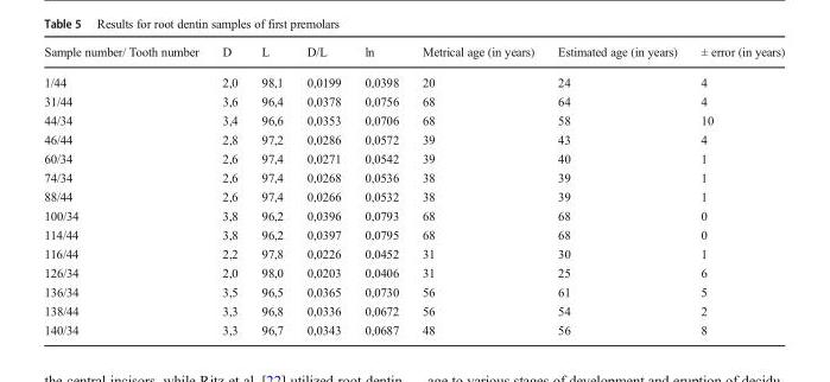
<table><thead><tr><td>Sample number/ Tooth number</td><td>D</td><td>L</td><td>D/L</td><td>ln</td><td>Metrical age (in years)</td><td>Estimated age (in years)</td><td>± error (in years)</td></tr></thead><tbody><tr><td>1/44</td><td>2,0</td><td>98,1</td><td>0,0199</td><td>0,0398</td><td>20</td><td>24</td><td>4</td></tr><tr><td>31/44</td><td>3,6</td><td>96,4</td><td>0,0378</td><td>0,0756</td><td>68</td><td>64</td><td>4</td></tr><tr><td>44/34</td><td>3,4</td><td>96,6</td><td>0,0353</td><td>0,0706</td><td>68</td><td>58</td><td>10</td></tr><tr><td>46/44</td><td>2,8</td><td>97,2</td><td>0,0286</td><td>0,0572</td><td>39</td><td>43</td><td>4</td></tr><tr><td>60/34</td><td>2,6</td><td>97,4</td><td>0,0271</td><td>0,0542</td><td>39</td><td>40</td><td>1</td></tr><tr><td>74/34</td><td>2,6</td><td>97,4</td><td>0,0268</td><td>0,0536</td><td>38</td><td>39</td><td>1</td></tr><tr><td>88/44</td><td>2,6</td><td>97,4</td><td>0,0266</td><td>0,0532</td><td>38</td><td>39</td><td>1</td></tr><tr><td>100/34</td><td>3,8</td><td>96,2</td><td>0,0396</td><td>0,0793</td><td>68</td><td>68</td><td>0</td></tr><tr><td>114/44</td><td>3,8</td><td>96,2</td><td>0,0397</td><td>0,0795</td><td>68</td><td>68</td><td>0</td></tr><tr><td>116/44</td><td>2,2</td><td>97,8</td><td>0,0226</td><td>0,0452</td><td>31</td><td>30</td><td>1</td></tr><tr><td>126/34</td><td>2,0</td><td>98,0</td><td>0,0203</td><td>0,0406</td><td>31</td><td>25</td><td>6</td></tr><tr><td>136/34</td><td>3,5</td><td>96,5</td><td>0,0365</td><td>0,0730</td><td>56</td><td>61</td><td>5</td></tr><tr><td>138/44</td><td>3,3</td><td>96,8</td><td>0,0336</td><td>0,0672</td><td>56</td><td>54</td><td>2</td></tr><tr><td>140/34</td><td>3,3</td><td>96,7</td><td>0,0343</td><td>0,0687</td><td>48</td><td>56</td><td>8</td></tr></tbody></table>